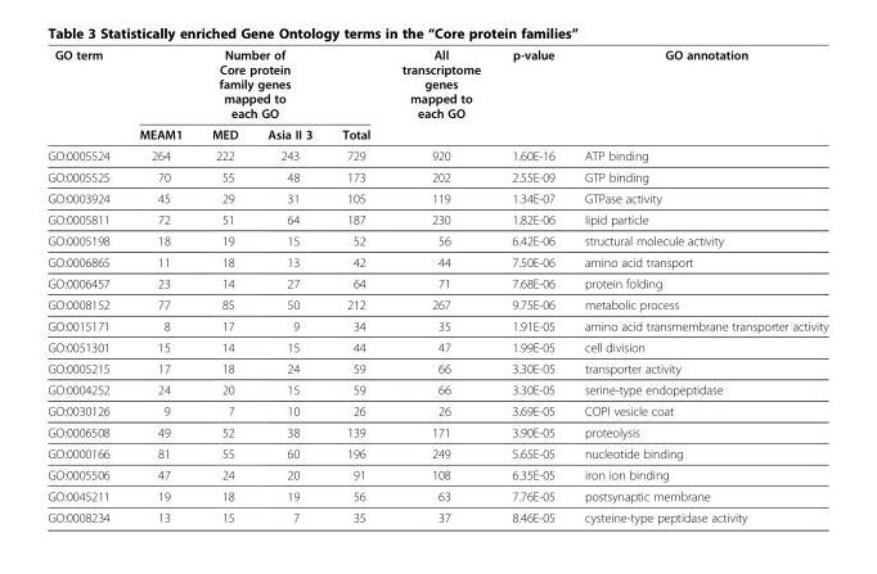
<table><thead><tr><td rowspan="2">GO term</td><td colspan="4">Number of Core protein family genes mapped to each GO</td><td rowspan="2">All transcriptome genes mapped to each GO</td><td rowspan="2">p-value</td><td rowspan="2">GO annotation</td></tr><tr><td>MEAM1</td><td>MED</td><td>Asia II 3</td><td>Total</td></tr></thead><tbody><tr><td>GO:0005524</td><td>264</td><td>222</td><td>243</td><td>729</td><td>920</td><td>1.60E-16</td><td>ATP binding</td></tr><tr><td>GO:0005525</td><td>70</td><td>55</td><td>48</td><td>173</td><td>202</td><td>2.55E-09</td><td>GTP binding</td></tr><tr><td>GO:0003924</td><td>45</td><td>29</td><td>31</td><td>105</td><td>119</td><td>1.34E-07</td><td>GTPase activity</td></tr><tr><td>GO:0005811</td><td>72</td><td>51</td><td>64</td><td>187</td><td>230</td><td>1.82E-06</td><td>lipid particle</td></tr><tr><td>GO:0005198</td><td>18</td><td>19</td><td>15</td><td>52</td><td>56</td><td>6.42E-06</td><td>structural molecule activity</td></tr><tr><td>GO:0006865</td><td>11</td><td>18</td><td>13</td><td>42</td><td>44</td><td>7.50E-06</td><td>amino acid transport</td></tr><tr><td>GO:0006457</td><td>23</td><td>14</td><td>27</td><td>64</td><td>71</td><td>7.68E-06</td><td>protein folding</td></tr><tr><td>GO:0008152</td><td>77</td><td>85</td><td>50</td><td>212</td><td>267</td><td>9.75E-06</td><td>metabolic process</td></tr><tr><td>GO:0015171</td><td>8</td><td>17</td><td>9</td><td>34</td><td>35</td><td>1.91E-05</td><td>amino acid transmembrane transporter activity</td></tr><tr><td>GO:0051301</td><td>15</td><td>14</td><td>15</td><td>44</td><td>47</td><td>1.99E-05</td><td>cell division</td></tr><tr><td>GO:0005215</td><td>17</td><td>18</td><td>24</td><td>59</td><td>66</td><td>3.30E-05</td><td>transporter activity</td></tr><tr><td>GO:0004252</td><td>24</td><td>20</td><td>15</td><td>59</td><td>66</td><td>3.30E-05</td><td>serine-type endopeptidase</td></tr><tr><td>GO:0030126</td><td>9</td><td>7</td><td>10</td><td>26</td><td>26</td><td>3.69E-05</td><td>COPI vesicle coat</td></tr><tr><td>GO:0006508</td><td>49</td><td>52</td><td>38</td><td>139</td><td>171</td><td>3.90E-05</td><td>proteolysis</td></tr><tr><td>GO:0000166</td><td>81</td><td>55</td><td>60</td><td>196</td><td>249</td><td>5.65E-05</td><td>nucleotide binding</td></tr><tr><td>GO:0005506</td><td>47</td><td>24</td><td>20</td><td>91</td><td>108</td><td>6.35E-05</td><td>iron ion binding</td></tr><tr><td>GO:0045211</td><td>19</td><td>18</td><td>19</td><td>56</td><td>63</td><td>7.76E-05</td><td>postsynaptic membrane</td></tr><tr><td>GO:0008234</td><td>13</td><td>15</td><td>7</td><td>35</td><td>37</td><td>8.46E-05</td><td>cysteine-type peptidase activity</td></tr></tbody></table>